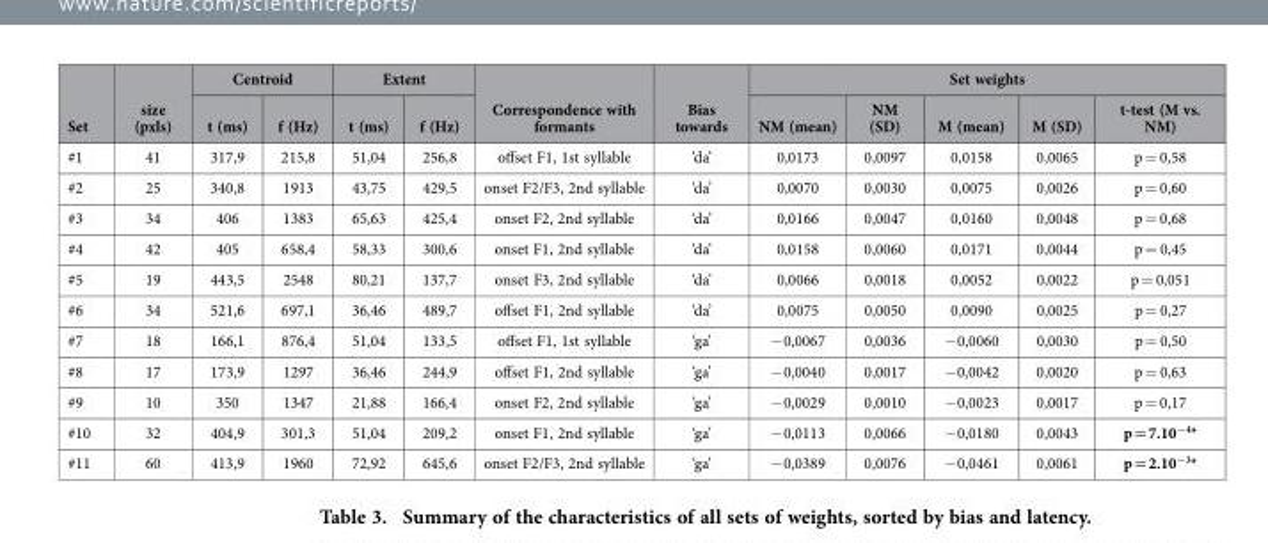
<table><thead><tr><td rowspan="2">Set</td><td rowspan="2">size (pxls)</td><td colspan="2">Centroid</td><td colspan="2">Extent</td><td rowspan="2">Correspondence with formants</td><td rowspan="2">Bias towards</td><td colspan="5">Set weights</td></tr><tr><td>t (ms)</td><td>f (Hz)</td><td>t (ms)</td><td>f (Hz)</td><td>NM (mean)</td><td>NM (SD)</td><td>M (mean)</td><td>M (SD)</td><td>t-test (M vs. NM)</td></tr></thead><tbody><tr><td>#1</td><td>41</td><td>317,9</td><td>215,8</td><td>51,04</td><td>256,8</td><td>offset F1, 1st syllable</td><td>‘da’</td><td>0,0173</td><td>0,0097</td><td>0,0158</td><td>0,0065</td><td>p = 0,58</td></tr><tr><td>#2</td><td>25</td><td>340,8</td><td>1913</td><td>43,75</td><td>429,5</td><td>onset F2/F3, 2nd syllable</td><td>‘da’</td><td>0,0070</td><td>0,0030</td><td>0,0075</td><td>0,0026</td><td>p = 0,60</td></tr><tr><td>#3</td><td>34</td><td>406</td><td>1383</td><td>65,63</td><td>425,4</td><td>onset F2, 2nd syllable</td><td>‘da’</td><td>0,0166</td><td>0,0047</td><td>0,0160</td><td>0,0048</td><td>p = 0,68</td></tr><tr><td>#4</td><td>42</td><td>405</td><td>658,4</td><td>58,33</td><td>300,6</td><td>onset F1, 2nd syllable</td><td>‘da’</td><td>0,0158</td><td>0,0060</td><td>0,0171</td><td>0,0044</td><td>p = 0,45</td></tr><tr><td>#5</td><td>19</td><td>443,5</td><td>2548</td><td>80,21</td><td>137,7</td><td>onset F3, 2nd syllable</td><td>‘da’</td><td>0,0066</td><td>0,0018</td><td>0,0052</td><td>0,0022</td><td>p = 0,051</td></tr><tr><td>#6</td><td>34</td><td>521,6</td><td>697,1</td><td>36,46</td><td>489,7</td><td>offset F1, 2nd syllable</td><td>‘da’</td><td>0,0075</td><td>0,0050</td><td>0,0090</td><td>0,0025</td><td>p = 0,27</td></tr><tr><td>#7</td><td>18</td><td>166,1</td><td>876,4</td><td>51,04</td><td>133,5</td><td>offset F1, 1st syllable</td><td>‘ga’</td><td>− 0,0067</td><td>0,0036</td><td>− 0,0060</td><td>0,0030</td><td>p = 0,50</td></tr><tr><td>#8</td><td>17</td><td>173,9</td><td>1297</td><td>36,46</td><td>244,9</td><td>offset F1, 2nd syllable</td><td>‘ga’</td><td>− 0,0040</td><td>0,0017</td><td>− 0,0042</td><td>0,0020</td><td>p = 0,63</td></tr><tr><td>#9</td><td>10</td><td>350</td><td>1347</td><td>21,88</td><td>166,4</td><td>onset F2, 2nd syllable</td><td>‘ga’</td><td>− 0,0029</td><td>0,0010</td><td>− 0,0023</td><td>0,0017</td><td>p = 0,17</td></tr><tr><td>#10</td><td>32</td><td>404,9</td><td>301,3</td><td>51,04</td><td>209,2</td><td>onset F1, 2nd syllable</td><td>‘ga’</td><td>− 0,0113</td><td>0,0066</td><td>− 0,0180</td><td>0,0043</td><td>p = 7.10<sup>−4</sup>*</td></tr><tr><td>#11</td><td>60</td><td>413,9</td><td>1960</td><td>72,92</td><td>645,6</td><td>onset F2/F3, 2nd syllable</td><td>‘ga’</td><td>− 0,0389</td><td>0,0076</td><td>− 0,0461</td><td>0,0061</td><td>p = 2.10<sup>−3</sup>*</td></tr></tbody></table>